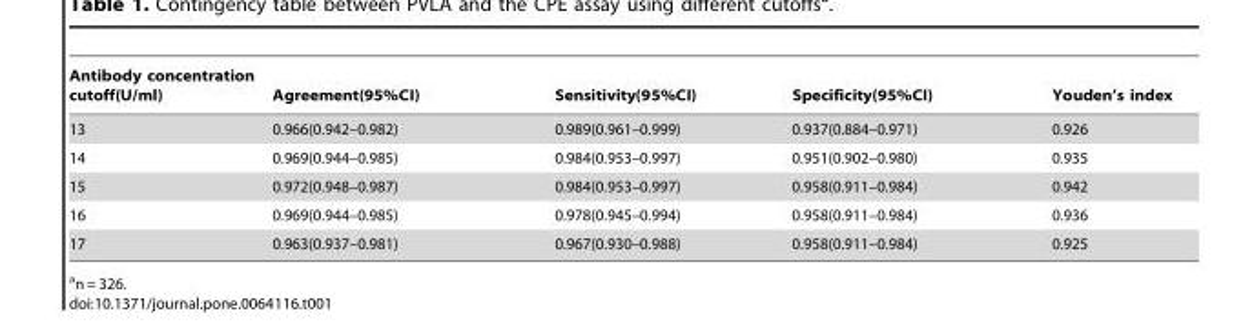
<table><thead><tr><td>Antibody concentration cutoff(U/ml)</td><td>Agreement(95%CI)</td><td>Sensitivity(95%CI)</td><td>Specificity(95%CI)</td><td>Youden’s index</td></tr></thead><tbody><tr><td>13</td><td>0.966(0.942–0.982)</td><td>0.989(0.961–0.999)</td><td>0.937(0.884–0.971)</td><td>0.926</td></tr><tr><td>14</td><td>0.969(0.944–0.985)</td><td>0.984(0.953–0.997)</td><td>0.951(0.902–0.980)</td><td>0.935</td></tr><tr><td>15</td><td>0.972(0.948–0.987)</td><td>0.984(0.953–0.997)</td><td>0.958(0.911–0.984)</td><td>0.942</td></tr><tr><td>16</td><td>0.969(0.944–0.985)</td><td>0.978(0.945–0.994)</td><td>0.958(0.911–0.984)</td><td>0.936</td></tr><tr><td>17</td><td>0.963(0.937–0.981)</td><td>0.967(0.930–0.988)</td><td>0.958(0.911–0.984)</td><td>0.925</td></tr></tbody></table>